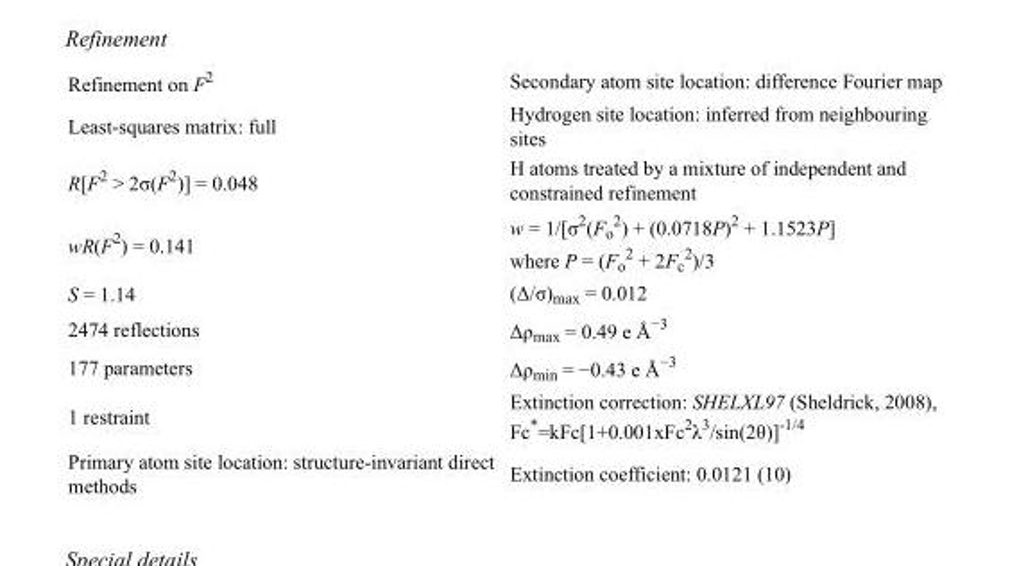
<table><tbody><tr><td>Refinement on F<sup>2</sup></td><td>Secondary atom site location: difference Fourier map</td></tr><tr><td>Least-squares matrix: full</td><td>Hydrogen site location: inferred from neighbouring sites</td></tr><tr><td>R[F<sup>2</sup> &gt; 2σ(F<sup>2</sup>)] = 0.048</td><td>H atoms treated by a mixture of independent and constrained refinement</td></tr><tr><td>wR(F<sup>2</sup>) = 0.141</td><td>w = 1/[σ<sup>2</sup>(F<sub>o</sub> <sup>2</sup>) + (0.0718P)<sup>2</sup> + 1.1523P] where P = (F<sub>o</sub> <sup>2</sup> + 2F<sub>c</sub> <sup>2</sup>)/3</td></tr><tr><td>S = 1.14</td><td>(Δ/σ)<sub>max</sub> = 0.012</td></tr><tr><td>2474 reflections</td><td>Δρ<sub>max</sub> = 0.49 e Å<sup>−3</sup></td></tr><tr><td>177 parameters</td><td>Δρ<sub>min</sub> = −0.43 e Å<sup>−3</sup></td></tr><tr><td>1 restraint</td><td>Extinction correction: SHELXL97 (Sheldrick, 2008), Fc*=kFc[1+0.001xFc<sup>2</sup>λ<sup>3</sup>/sin(2θ)]<sup>-1/4</sup></td></tr><tr><td>Primary atom site location: structure-invariant direct methods</td><td>Extinction coefficient: 0.0121 (10)</td></tr></tbody></table>